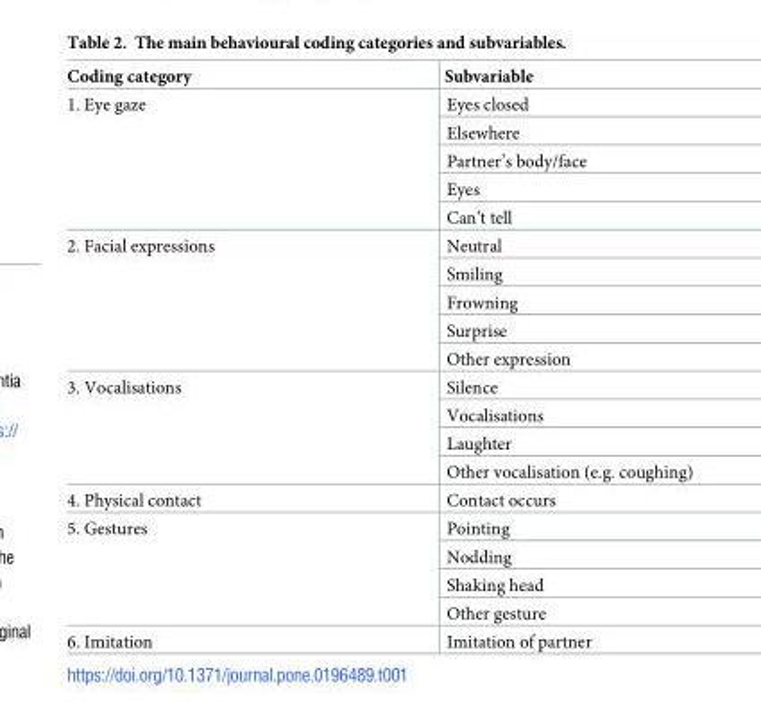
<table><thead><tr><td>Coding category</td><td>Subvariable</td></tr></thead><tbody><tr><td rowspan="5">1. Eye gaze</td><td>Eyes closed</td></tr><tr><td>Elsewhere</td></tr><tr><td>Partner’s body/face</td></tr><tr><td>Eyes</td></tr><tr><td>Can’t tell</td></tr><tr><td rowspan="5">2. Facial expressions</td><td>Neutral</td></tr><tr><td>Smiling</td></tr><tr><td>Frowning</td></tr><tr><td>Surprise</td></tr><tr><td>Other expression</td></tr><tr><td rowspan="4">3. Vocalisations</td><td>Silence</td></tr><tr><td>Vocalisations</td></tr><tr><td>Laughter</td></tr><tr><td>Other vocalisation (e.g. coughing)</td></tr><tr><td>4. Physical contact</td><td>Contact occurs</td></tr><tr><td rowspan="4">5. Gestures</td><td>Pointing</td></tr><tr><td>Nodding</td></tr><tr><td>Shaking head</td></tr><tr><td>Other gesture</td></tr><tr><td>6. Imitation</td><td>Imitation of partner</td></tr></tbody></table>